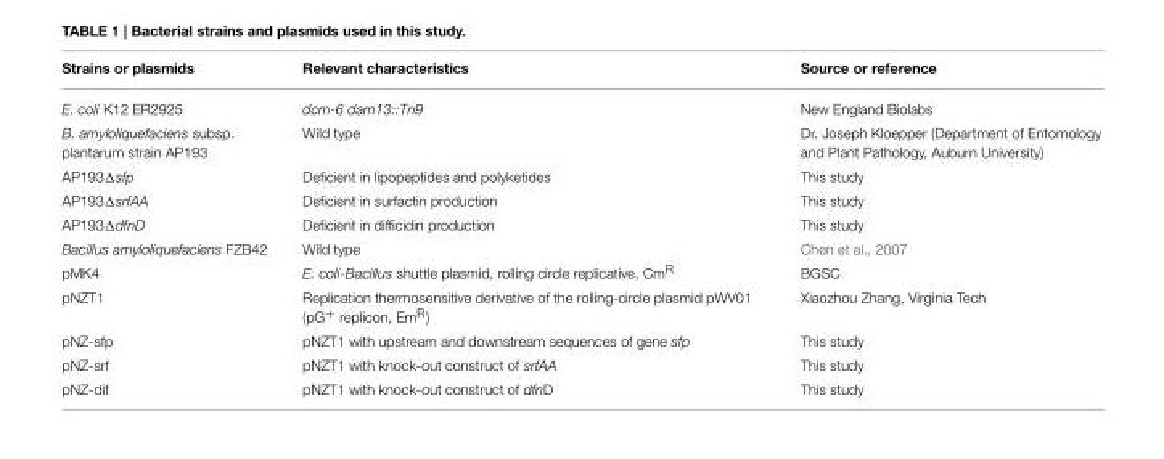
<table><thead><tr><td>Strains or plasmids</td><td>Relevant characteristics</td><td>Source or reference</td></tr></thead><tbody><tr><td>E. coli K12 ER2925</td><td>dcm-6 dam13::Tn9</td><td>New England Biolabs</td></tr><tr><td>B. amyloliquefaciens subsp. plantarum strain AP193</td><td>Wild type</td><td>Dr. Joseph Kloepper (Department of Entomology and Plant Pathology, Auburn University)</td></tr><tr><td>AP193Δsfp</td><td>Deficient in lipopeptides and polyketides</td><td>This study</td></tr><tr><td>AP193ΔsrfAA</td><td>Deficient in surfactin production</td><td>This study</td></tr><tr><td>AP193ΔdfnD</td><td>Deficient in difficidin production</td><td>This study</td></tr><tr><td>Bacillus amyloliquefaciens FZB42</td><td>Wild type</td><td>Chen et al., 2007</td></tr><tr><td>pMK4</td><td>E. coli-Bacillus shuttle plasmid, rolling circle replicative, Cm<sup>R</sup></td><td>BGSC</td></tr><tr><td>pNZT1</td><td>Replication thermosensitive derivative of the rolling-circle plasmid pWV01 (pG<sup>+</sup> replicon, Em<sup>R</sup>)</td><td>Xiaozhou Zhang, Virginia Tech</td></tr><tr><td>pNZ-sfp</td><td>pNZT1 with upstream and downstream sequences of gene sfp</td><td>This study</td></tr><tr><td>pNZ-srf</td><td>pNZT1 with knock-out construct of srfAA</td><td>This study</td></tr><tr><td>pNZ-dif</td><td>pNZT1 with knock-out construct of dfnD</td><td>This study</td></tr></tbody></table>